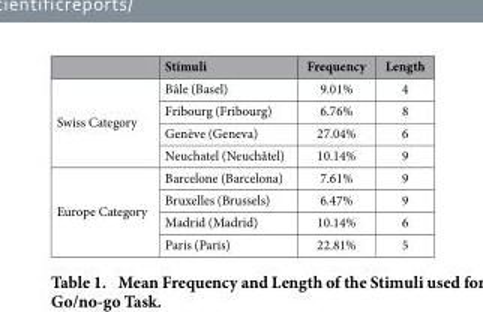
<table><thead><tr><td></td><td>Stimuli</td><td>Frequency</td><td>Length</td></tr></thead><tbody><tr><td rowspan="4">Swiss Category</td><td>Bâle (Basel)</td><td>9.01%</td><td>4</td></tr><tr><td>Fribourg (Fribourg)</td><td>6.76%</td><td>8</td></tr><tr><td>Genève (Geneva)</td><td>27.04%</td><td>6</td></tr><tr><td>Neuchatel (Neuchâtel)</td><td>10.14%</td><td>9</td></tr><tr><td rowspan="4">Europe Category</td><td>Barcelone (Barcelona)</td><td>7.61%</td><td>9</td></tr><tr><td>Bruxelles (Brussels)</td><td>6.47%</td><td>9</td></tr><tr><td>Madrid (Madrid)</td><td>10.14%</td><td>6</td></tr><tr><td>Paris (Paris)</td><td>22.81%</td><td>5</td></tr></tbody></table>